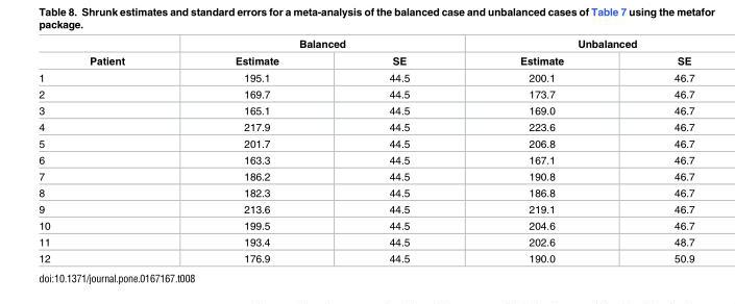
<table><thead><tr><td rowspan="2">Patient</td><td colspan="2">Balanced</td><td colspan="2">Unbalanced</td></tr><tr><td>Estimate</td><td>SE</td><td>Estimate</td><td>SE</td></tr></thead><tbody><tr><td>1</td><td>195.1</td><td>44.5</td><td>200.1</td><td>46.7</td></tr><tr><td>2</td><td>169.7</td><td>44.5</td><td>173.7</td><td>46.7</td></tr><tr><td>3</td><td>165.1</td><td>44.5</td><td>169.0</td><td>46.7</td></tr><tr><td>4</td><td>217.9</td><td>44.5</td><td>223.6</td><td>46.7</td></tr><tr><td>5</td><td>201.7</td><td>44.5</td><td>206.8</td><td>46.7</td></tr><tr><td>6</td><td>163.3</td><td>44.5</td><td>167.1</td><td>46.7</td></tr><tr><td>7</td><td>186.2</td><td>44.5</td><td>190.8</td><td>46.7</td></tr><tr><td>8</td><td>182.3</td><td>44.5</td><td>186.8</td><td>46.7</td></tr><tr><td>9</td><td>213.6</td><td>44.5</td><td>219.1</td><td>46.7</td></tr><tr><td>10</td><td>199.5</td><td>44.5</td><td>204.6</td><td>46.7</td></tr><tr><td>11</td><td>193.4</td><td>44.5</td><td>202.6</td><td>48.7</td></tr><tr><td>12</td><td>176.9</td><td>44.5</td><td>190.0</td><td>50.9</td></tr></tbody></table>